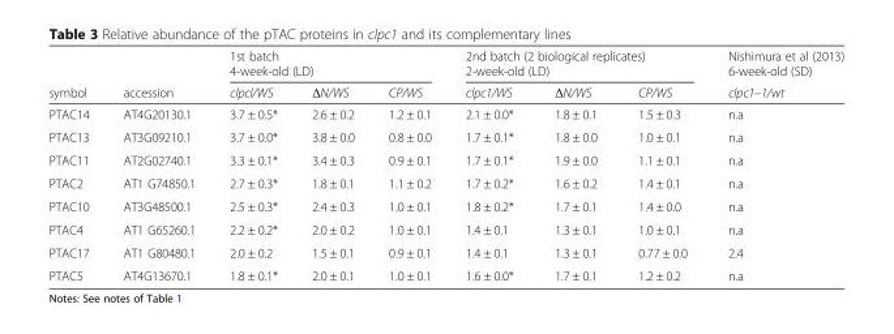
<table><thead><tr><td rowspan="2">symbol</td><td rowspan="2">accession</td><td colspan="3">1st batch 4-week-old (LD)</td><td colspan="3">2nd batch (2 biological replicates) 2-week-old (LD)</td><td rowspan="2">Nishimura et al (2013) 6-week-old (SD) clpc1–1/wt</td></tr><tr><td>clpcl/WS</td><td>ΔN/WS</td><td>CP/WS</td><td>clpc1/WS</td><td>ΔN/WS</td><td>CP/WS</td></tr></thead><tbody><tr><td>PTAC14</td><td>AT4G20130.1</td><td>3.7 ± 0.5*</td><td>2.6 ± 0.2</td><td>1.2 ± 0.1</td><td>2.1 ± 0.0*</td><td>1.8 ± 0.1</td><td>1.5 ± 0.3</td><td>n.a</td></tr><tr><td>PTAC13</td><td>AT3G09210.1</td><td>3.7 ± 0.0*</td><td>3.8 ± 0.0</td><td>0.8 ± 0.0</td><td>1.7 ± 0.1*</td><td>1.8 ± 0.0</td><td>1.0 ± 0.1</td><td>n.a</td></tr><tr><td>PTAC11</td><td>AT2G02740.1</td><td>3.3 ± 0.1*</td><td>3.4 ± 0.3</td><td>0.9 ± 0.1</td><td>1.7 ± 0.1*</td><td>1.9 ± 0.0</td><td>1.1 ± 0.1</td><td>n.a</td></tr><tr><td>PTAC2</td><td>AT1 G74850.1</td><td>2.7 ± 0.3*</td><td>1.8 ± 0.1</td><td>1.1 ± 0.2</td><td>1.7 ± 0.2*</td><td>1.6 ± 0.2</td><td>1.4 ± 0.1</td><td>n.a</td></tr><tr><td>PTAC10</td><td>AT3G48500.1</td><td>2.5 ± 0.3*</td><td>2.4 ± 0.3</td><td>1.0 ± 0.1</td><td>1.8 ± 0.2*</td><td>1.7 ± 0.1</td><td>1.4 ± 0.0</td><td>n.a</td></tr><tr><td>PTAC4</td><td>AT1 G65260.1</td><td>2.2 ± 0.2*</td><td>2.0 ± 0.2</td><td>1.0 ± 0.1</td><td>1.4 ± 0.1</td><td>1.3 ± 0.1</td><td>1.0 ± 0.1</td><td>n.a</td></tr><tr><td>PTAC17</td><td>AT1 G80480.1</td><td>2.0 ± 0.2</td><td>1.5 ± 0.1</td><td>0.9 ± 0.1</td><td>1.4 ± 0.1</td><td>1.3 ± 0.1</td><td>0.77 ± 0.0</td><td>2.4</td></tr><tr><td>PTAC5</td><td>AT4G13670.1</td><td>1.8 ± 0.1*</td><td>2.0 ± 0.1</td><td>1.0 ± 0.1</td><td>1.6 ± 0.0*</td><td>1.7 ± 0.1</td><td>1.2 ± 0.2</td><td>n.a</td></tr></tbody></table>